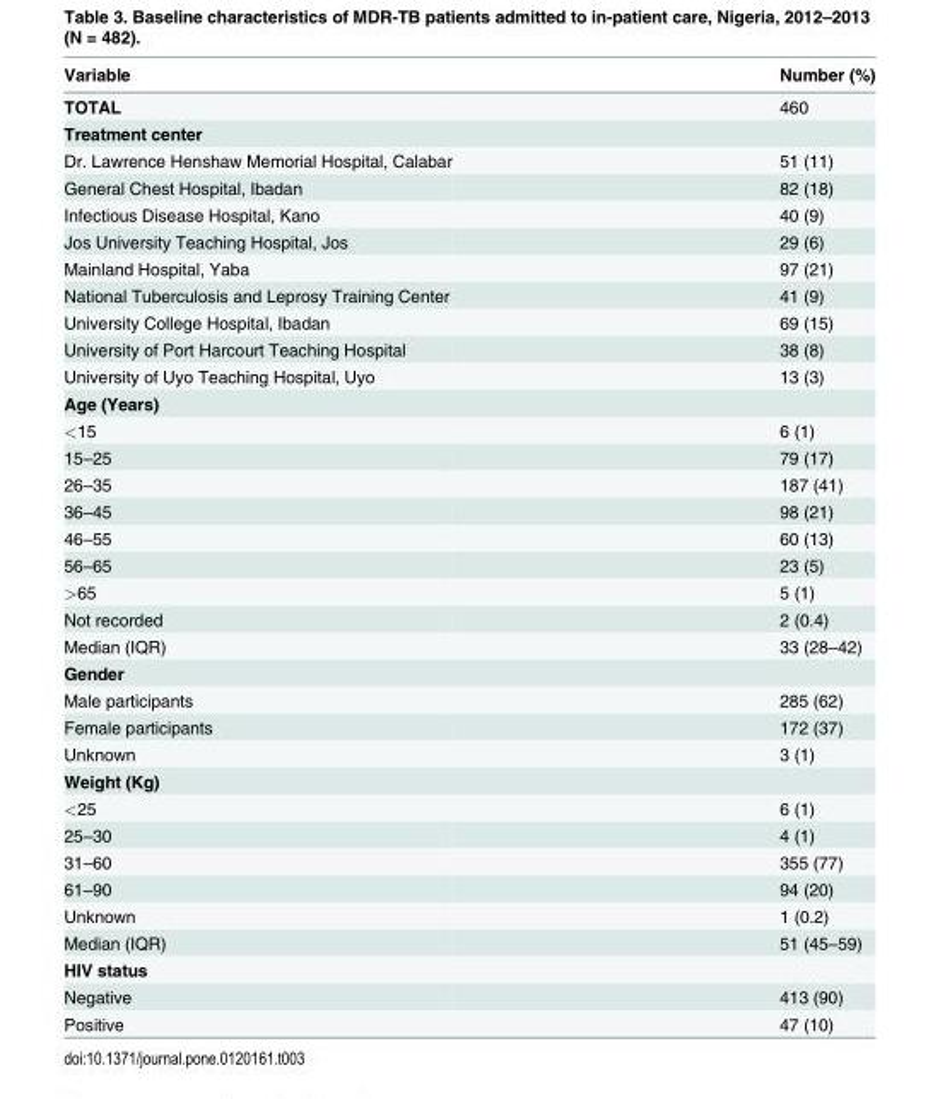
<table><thead><tr><td>Variable</td><td>Number (%)</td></tr></thead><tbody><tr><td>TOTAL</td><td>460</td></tr><tr><td colspan="2">Treatment center</td></tr><tr><td>Dr. Lawrence Henshaw Memorial Hospital, Calabar</td><td>51 (11)</td></tr><tr><td>General Chest Hospital, Ibadan</td><td>82 (18)</td></tr><tr><td>Infectious Disease Hospital, Kano</td><td>40 (9)</td></tr><tr><td>Jos University Teaching Hospital, Jos</td><td>29 (6)</td></tr><tr><td>Mainland Hospital, Yaba</td><td>97 (21)</td></tr><tr><td>National Tuberculosis and Leprosy Training Center</td><td>41 (9)</td></tr><tr><td>University College Hospital, Ibadan</td><td>69 (15)</td></tr><tr><td>University of Port Harcourt Teaching Hospital</td><td>38 (8)</td></tr><tr><td>University of Uyo Teaching Hospital, Uyo</td><td>13 (3)</td></tr><tr><td colspan="2">Age (Years)</td></tr><tr><td>&lt;15</td><td>6 (1)</td></tr><tr><td>15–25</td><td>79 (17)</td></tr><tr><td>26–35</td><td>187 (41)</td></tr><tr><td>36–45</td><td>98 (21)</td></tr><tr><td>46–55</td><td>60 (13)</td></tr><tr><td>56–65</td><td>23 (5)</td></tr><tr><td>&gt;65</td><td>5 (1)</td></tr><tr><td>Not recorded</td><td>2 (0.4)</td></tr><tr><td>Median (IQR)</td><td>33 (28–42)</td></tr><tr><td colspan="2">Gender</td></tr><tr><td>Male participants</td><td>285 (62)</td></tr><tr><td>Female participants</td><td>172 (37)</td></tr><tr><td>Unknown</td><td>3 (1)</td></tr><tr><td colspan="2">Weight (Kg)</td></tr><tr><td>&lt;25</td><td>6 (1)</td></tr><tr><td>25–30</td><td>4 (1)</td></tr><tr><td>31–60</td><td>355 (77)</td></tr><tr><td>61–90</td><td>94 (20)</td></tr><tr><td>Unknown</td><td>1 (0.2)</td></tr><tr><td>Median (IQR)</td><td>51 (45–59)</td></tr><tr><td colspan="2">HIV status</td></tr><tr><td>Negative</td><td>413 (90)</td></tr><tr><td>Positive</td><td>47 (10)</td></tr></tbody></table>